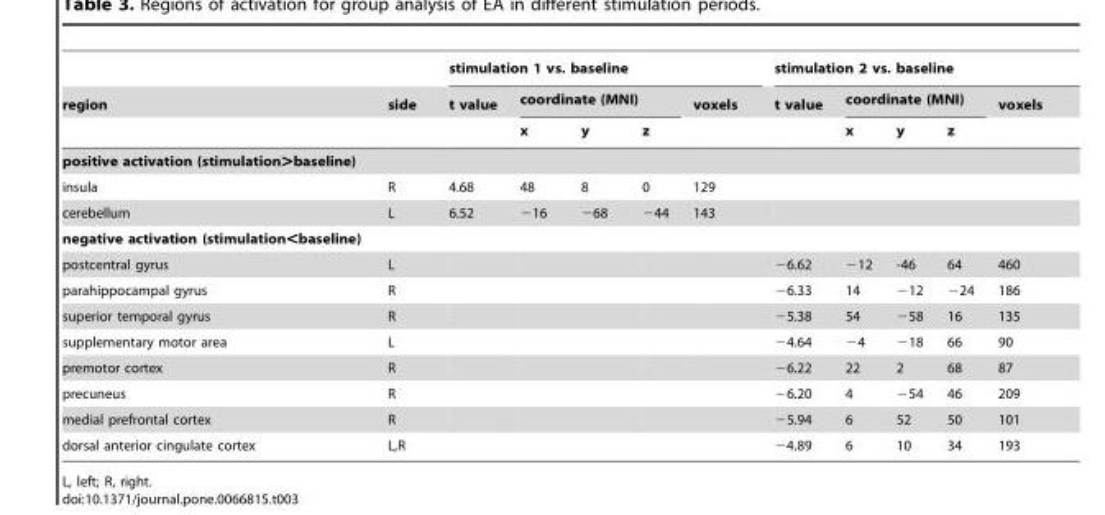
<table><thead><tr><td rowspan="3">region</td><td rowspan="3">side</td><td colspan="5">stimulation 1 vs. baseline</td><td colspan="5">stimulation 2 vs. baseline</td></tr><tr><td rowspan="2">t value</td><td colspan="3">coordinate (MNI)</td><td rowspan="2">voxels</td><td rowspan="2">t value</td><td colspan="3">coordinate (MNI)</td><td rowspan="2">voxels</td></tr><tr><td>x</td><td>y</td><td>z</td><td>x</td><td>y</td><td>z</td></tr></thead><tbody><tr><td colspan="12">positive activation (stimulation&gt;baseline)</td></tr><tr><td>insula</td><td>R</td><td>4.68</td><td>48</td><td>8</td><td>0</td><td>129</td><td></td><td></td><td></td><td></td><td></td></tr><tr><td>cerebellum</td><td>L</td><td>6.52</td><td>−16</td><td>−68</td><td>−44</td><td>143</td><td></td><td></td><td></td><td></td><td></td></tr><tr><td colspan="12">negative activation (stimulation&lt;baseline)</td></tr><tr><td>postcentral gyrus</td><td>L</td><td></td><td></td><td></td><td></td><td></td><td>−6.62</td><td>−12</td><td>-46</td><td>64</td><td>460</td></tr><tr><td>parahippocampal gyrus</td><td>R</td><td></td><td></td><td></td><td></td><td></td><td>−6.33</td><td>14</td><td>−12</td><td>−24</td><td>186</td></tr><tr><td>superior temporal gyrus</td><td>R</td><td></td><td></td><td></td><td></td><td></td><td>−5.38</td><td>54</td><td>−58</td><td>16</td><td>135</td></tr><tr><td>supplementary motor area</td><td>L</td><td></td><td></td><td></td><td></td><td></td><td>−4.64</td><td>−4</td><td>−18</td><td>66</td><td>90</td></tr><tr><td>premotor cortex</td><td>R</td><td></td><td></td><td></td><td></td><td></td><td>−6.22</td><td>22</td><td>2</td><td>68</td><td>87</td></tr><tr><td>precuneus</td><td>R</td><td></td><td></td><td></td><td></td><td></td><td>−6.20</td><td>4</td><td>−54</td><td>46</td><td>209</td></tr><tr><td>medial prefrontal cortex</td><td>R</td><td></td><td></td><td></td><td></td><td></td><td>−5.94</td><td>6</td><td>52</td><td>50</td><td>101</td></tr><tr><td>dorsal anterior cingulate cortex</td><td>L,R</td><td></td><td></td><td></td><td></td><td></td><td>−4.89</td><td>6</td><td>10</td><td>34</td><td>193</td></tr></tbody></table>